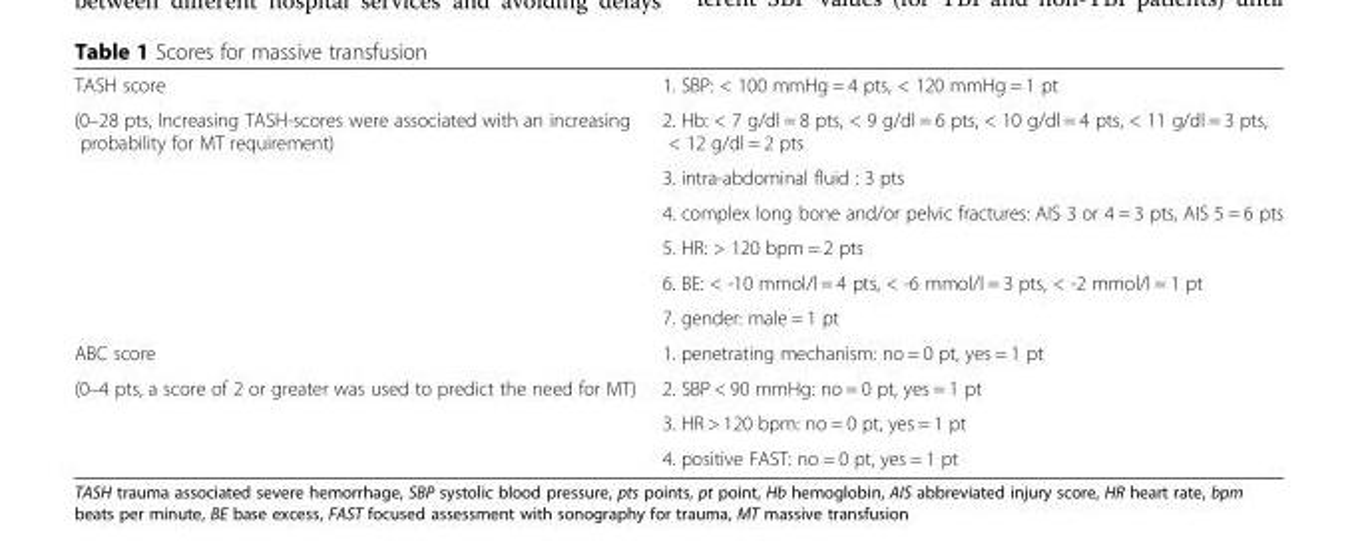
<table><tbody><tr><td>TASH score</td><td>1. SBP: &lt; 100 mmHg = 4 pts, &lt; 120 mmHg = 1 pt</td></tr><tr><td rowspan="6">(0–28 pts, Increasing TASH-scores were associated with an increasing probability for MT requirement)</td><td>2. Hb: &lt; 7 g/dl = 8 pts, &lt; 9 g/dl = 6 pts, &lt; 10 g/dl = 4 pts, &lt; 11 g/dl = 3 pts, &lt; 12 g/dl = 2 pts</td></tr><tr><td>3. intra-abdominal fluid : 3 pts</td></tr><tr><td>4. complex long bone and/or pelvic fractures: AIS 3 or 4 = 3 pts, AIS 5 = 6 pts</td></tr><tr><td>5. HR: &gt; 120 bpm = 2 pts</td></tr><tr><td>6. BE: &lt; -10 mmol/l = 4 pts, &lt; -6 mmol/l = 3 pts, &lt; -2 mmol/l = 1 pt</td></tr><tr><td>7. gender: male = 1 pt</td></tr><tr><td>ABC score</td><td>1. penetrating mechanism: no = 0 pt, yes = 1 pt</td></tr><tr><td rowspan="3">(0–4 pts, a score of 2 or greater was used to predict the need for MT)</td><td>2. SBP &lt; 90 mmHg: no = 0 pt, yes = 1 pt</td></tr><tr><td>3. HR &gt; 120 bpm: no = 0 pt, yes = 1 pt</td></tr><tr><td>4. positive FAST: no = 0 pt, yes = 1 pt</td></tr></tbody></table>